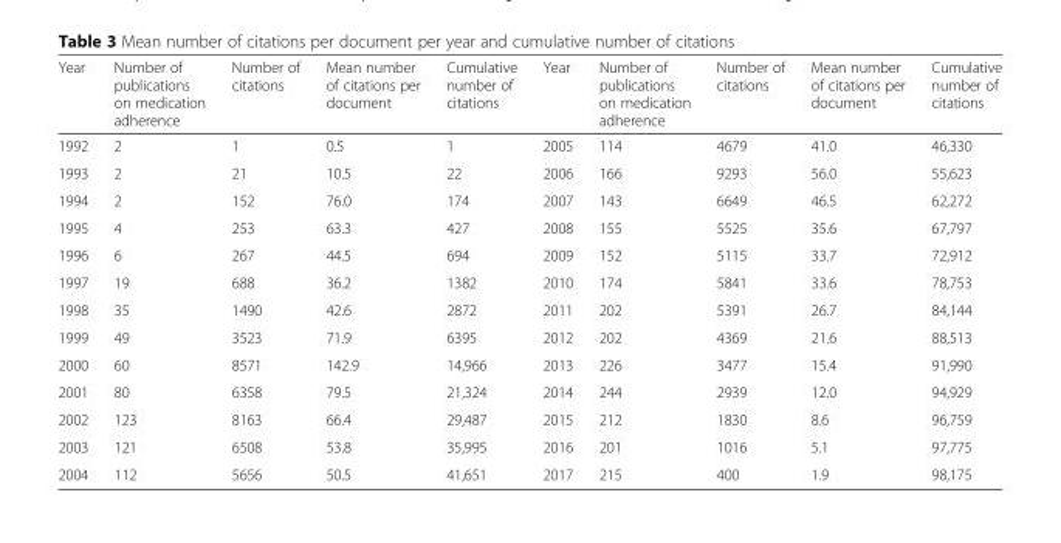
<table><thead><tr><td>Year</td><td>Number of publications on medication adherence</td><td>Number of citations</td><td>Mean number of citations per document</td><td>Cumulative number of citations</td><td>Year</td><td>Number of publications on medication adherence</td><td>Number of citations</td><td>Mean number of citations per document</td><td>Cumulative number of citations</td></tr></thead><tbody><tr><td>1992</td><td>2</td><td>1</td><td>0.5</td><td>1</td><td>2005</td><td>114</td><td>4679</td><td>41.0</td><td>46,330</td></tr><tr><td>1993</td><td>2</td><td>21</td><td>10.5</td><td>22</td><td>2006</td><td>166</td><td>9293</td><td>56.0</td><td>55,623</td></tr><tr><td>1994</td><td>2</td><td>152</td><td>76.0</td><td>174</td><td>2007</td><td>143</td><td>6649</td><td>46.5</td><td>62,272</td></tr><tr><td>1995</td><td>4</td><td>253</td><td>63.3</td><td>427</td><td>2008</td><td>155</td><td>5525</td><td>35.6</td><td>67,797</td></tr><tr><td>1996</td><td>6</td><td>267</td><td>44.5</td><td>694</td><td>2009</td><td>152</td><td>5115</td><td>33.7</td><td>72,912</td></tr><tr><td>1997</td><td>19</td><td>688</td><td>36.2</td><td>1382</td><td>2010</td><td>174</td><td>5841</td><td>33.6</td><td>78,753</td></tr><tr><td>1998</td><td>35</td><td>1490</td><td>42.6</td><td>2872</td><td>2011</td><td>202</td><td>5391</td><td>26.7</td><td>84,144</td></tr><tr><td>1999</td><td>49</td><td>3523</td><td>71.9</td><td>6395</td><td>2012</td><td>202</td><td>4369</td><td>21.6</td><td>88,513</td></tr><tr><td>2000</td><td>60</td><td>8571</td><td>142.9</td><td>14,966</td><td>2013</td><td>226</td><td>3477</td><td>15.4</td><td>91,990</td></tr><tr><td>2001</td><td>80</td><td>6358</td><td>79.5</td><td>21,324</td><td>2014</td><td>244</td><td>2939</td><td>12.0</td><td>94,929</td></tr><tr><td>2002</td><td>123</td><td>8163</td><td>66.4</td><td>29,487</td><td>2015</td><td>212</td><td>1830</td><td>8.6</td><td>96,759</td></tr><tr><td>2003</td><td>121</td><td>6508</td><td>53.8</td><td>35,995</td><td>2016</td><td>201</td><td>1016</td><td>5.1</td><td>97,775</td></tr><tr><td>2004</td><td>112</td><td>5656</td><td>50.5</td><td>41,651</td><td>2017</td><td>215</td><td>400</td><td>1.9</td><td>98,175</td></tr></tbody></table>